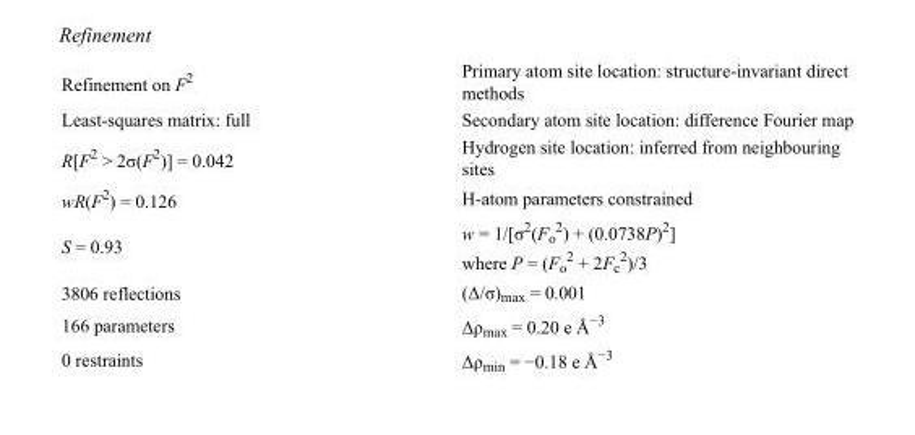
<table><tbody><tr><td>Refinement on F<sup>2</sup></td><td>Primary atom site location: structure-invariant direct methods</td></tr><tr><td>Least-squares matrix: full</td><td>Secondary atom site location: difference Fourier map</td></tr><tr><td>R[F<sup>2</sup> &gt; 2σ(F<sup>2</sup>)] = 0.042</td><td>Hydrogen site location: inferred from neighbouring sites</td></tr><tr><td>wR(F<sup>2</sup>) = 0.126</td><td>H-atom parameters constrained</td></tr><tr><td>S = 0.93</td><td>w = 1/[σ<sup>2</sup>(F<sub>o</sub> <sup>2</sup>) + (0.0738P)<sup>2</sup>] where P = (F<sub>o</sub> <sup>2</sup> + 2F<sub>c</sub> <sup>2</sup>)/3</td></tr><tr><td>3806 reflections</td><td>(Δ/σ)<sub>max</sub> = 0.001</td></tr><tr><td>166 parameters</td><td>Δρ<sub>max</sub> = 0.20 e Å<sup>−3</sup></td></tr><tr><td>0 restraints</td><td>Δρ<sub>min</sub> = −0.18 e Å<sup>−3</sup></td></tr></tbody></table>